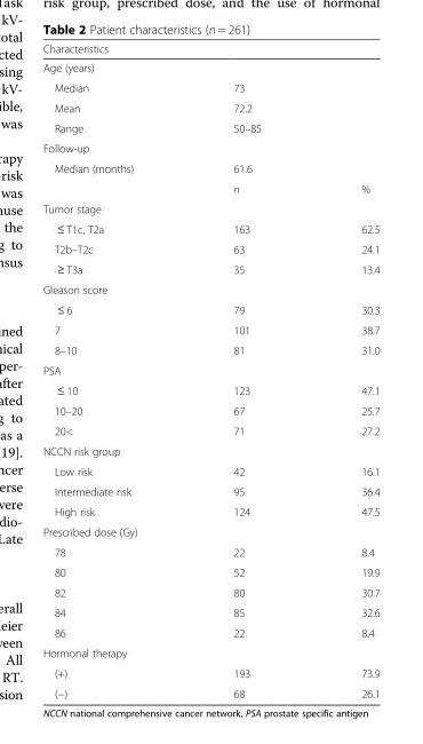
<table><thead><tr><td>Characteristics</td><td></td><td></td></tr></thead><tbody><tr><td colspan="3">Age (years)</td></tr><tr><td>Median</td><td>73</td><td></td></tr><tr><td>Mean</td><td>72.2</td><td></td></tr><tr><td>Range</td><td>50–85</td><td></td></tr><tr><td colspan="3">Follow-up</td></tr><tr><td rowspan="2">Median (months)</td><td>61.6</td><td></td></tr><tr><td>n</td><td>%</td></tr><tr><td colspan="3">Tumor stage</td></tr><tr><td>≤ T1c, T2a</td><td>163</td><td>62.5</td></tr><tr><td>T2b–T2c</td><td>63</td><td>24.1</td></tr><tr><td>≥ T3a</td><td>35</td><td>13.4</td></tr><tr><td colspan="3">Gleason score</td></tr><tr><td>≤ 6</td><td>79</td><td>30.3</td></tr><tr><td>7</td><td>101</td><td>38.7</td></tr><tr><td>8–10</td><td>81</td><td>31.0</td></tr><tr><td colspan="3">PSA</td></tr><tr><td>≤ 10</td><td>123</td><td>47.1</td></tr><tr><td>10–20</td><td>67</td><td>25.7</td></tr><tr><td>20&lt;</td><td>71</td><td>27.2</td></tr><tr><td colspan="3">NCCN risk group</td></tr><tr><td>Low risk</td><td>42</td><td>16.1</td></tr><tr><td>Intermediate risk</td><td>95</td><td>36.4</td></tr><tr><td>High risk</td><td>124</td><td>47.5</td></tr><tr><td colspan="3">Prescribed dose (Gy)</td></tr><tr><td>78</td><td>22</td><td>8.4</td></tr><tr><td>80</td><td>52</td><td>19.9</td></tr><tr><td>82</td><td>80</td><td>30.7</td></tr><tr><td>84</td><td>85</td><td>32.6</td></tr><tr><td>86</td><td>22</td><td>8.4</td></tr><tr><td colspan="3">Hormonal therapy</td></tr><tr><td>(+)</td><td>193</td><td>73.9</td></tr><tr><td>(−)</td><td>68</td><td>26.1</td></tr></tbody></table>